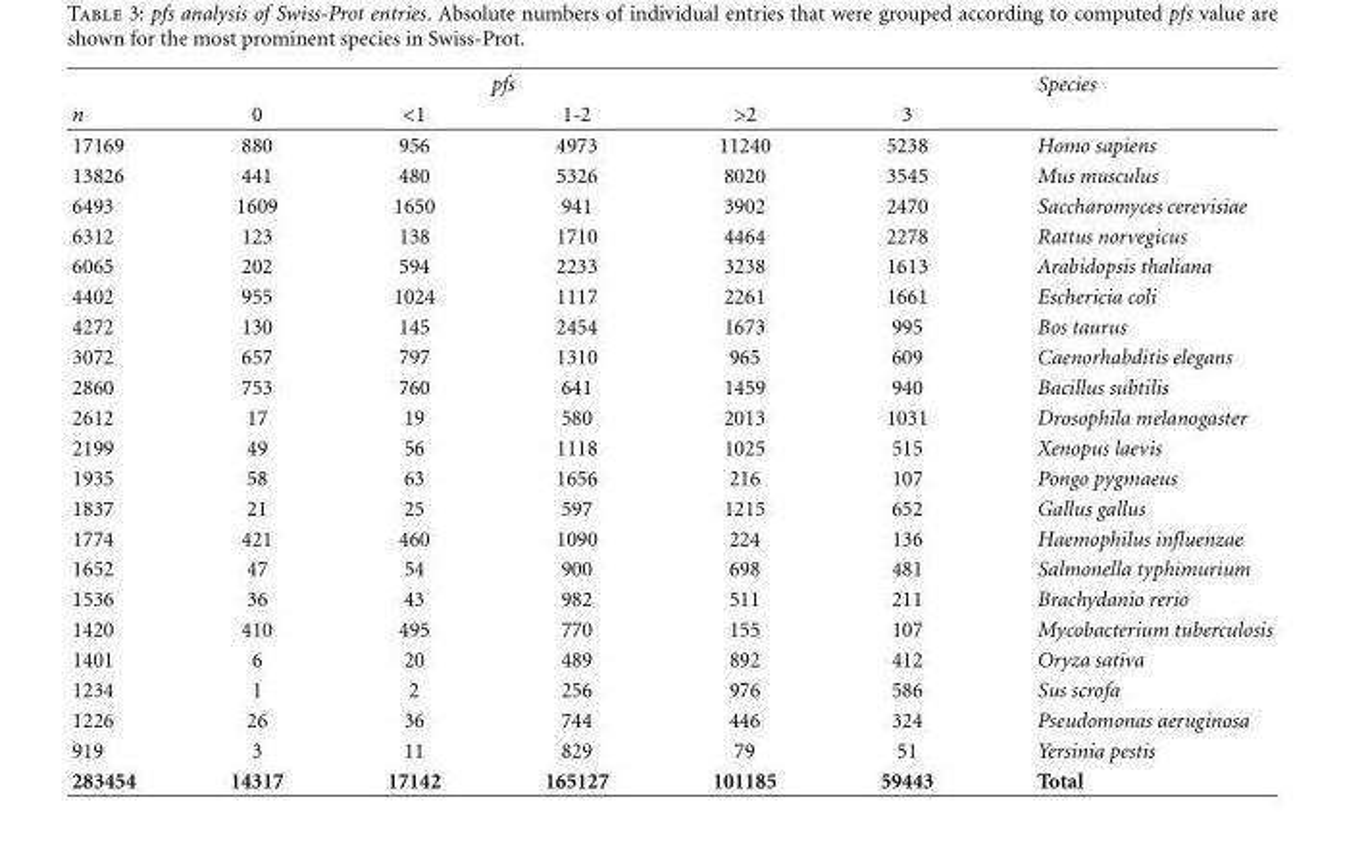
<table><thead><tr><td colspan="6">pfs</td><td rowspan="2">Species</td></tr><tr><td>n</td><td>0</td><td>&lt;1</td><td>1-2</td><td>&gt;2</td><td>3</td></tr></thead><tbody><tr><td>17169</td><td>880</td><td>956</td><td>4973</td><td>11240</td><td>5238</td><td>Homo sapiens</td></tr><tr><td>13826</td><td>441</td><td>480</td><td>5326</td><td>8020</td><td>3545</td><td>Mus musculus</td></tr><tr><td>6493</td><td>1609</td><td>1650</td><td>941</td><td>3902</td><td>2470</td><td>Saccharomyces cerevisiae</td></tr><tr><td>6312</td><td>123</td><td>138</td><td>1710</td><td>4464</td><td>2278</td><td>Rattus norvegicus</td></tr><tr><td>6065</td><td>202</td><td>594</td><td>2233</td><td>3238</td><td>1613</td><td>Arabidopsis thaliana</td></tr><tr><td>4402</td><td>955</td><td>1024</td><td>1117</td><td>2261</td><td>1661</td><td>Eschericia coli</td></tr><tr><td>4272</td><td>130</td><td>145</td><td>2454</td><td>1673</td><td>995</td><td>Bos taurus</td></tr><tr><td>3072</td><td>657</td><td>797</td><td>1310</td><td>965</td><td>609</td><td>Caenorhabditis elegans</td></tr><tr><td>2860</td><td>753</td><td>760</td><td>641</td><td>1459</td><td>940</td><td>Bacillus subtilis</td></tr><tr><td>2612</td><td>17</td><td>19</td><td>580</td><td>2013</td><td>1031</td><td>Drosophila melanogaster</td></tr><tr><td>2199</td><td>49</td><td>56</td><td>1118</td><td>1025</td><td>515</td><td>Xenopus laevis</td></tr><tr><td>1935</td><td>58</td><td>63</td><td>1656</td><td>216</td><td>107</td><td>Pongo pygmaeus</td></tr><tr><td>1837</td><td>21</td><td>25</td><td>597</td><td>1215</td><td>652</td><td>Gallus gallus</td></tr><tr><td>1774</td><td>421</td><td>460</td><td>1090</td><td>224</td><td>136</td><td>Haemophilus influenzae</td></tr><tr><td>1652</td><td>47</td><td>54</td><td>900</td><td>698</td><td>481</td><td>Salmonella typhimurium</td></tr><tr><td>1536</td><td>36</td><td>43</td><td>982</td><td>511</td><td>211</td><td>Brachydanio rerio</td></tr><tr><td>1420</td><td>410</td><td>495</td><td>770</td><td>155</td><td>107</td><td>Mycobacterium tuberculosis</td></tr><tr><td>1401</td><td>6</td><td>20</td><td>489</td><td>892</td><td>412</td><td>Oryza sativa</td></tr><tr><td>1234</td><td>1</td><td>2</td><td>256</td><td>976</td><td>586</td><td>Sus scrofa</td></tr><tr><td>1226</td><td>26</td><td>36</td><td>744</td><td>446</td><td>324</td><td>Pseudomonas aeruginosa</td></tr><tr><td>919</td><td>3</td><td>11</td><td>829</td><td>79</td><td>51</td><td>Yersinia pestis</td></tr><tr><td>283454</td><td>14317</td><td>17142</td><td>165127</td><td>101185</td><td>59443</td><td>Total</td></tr></tbody></table>